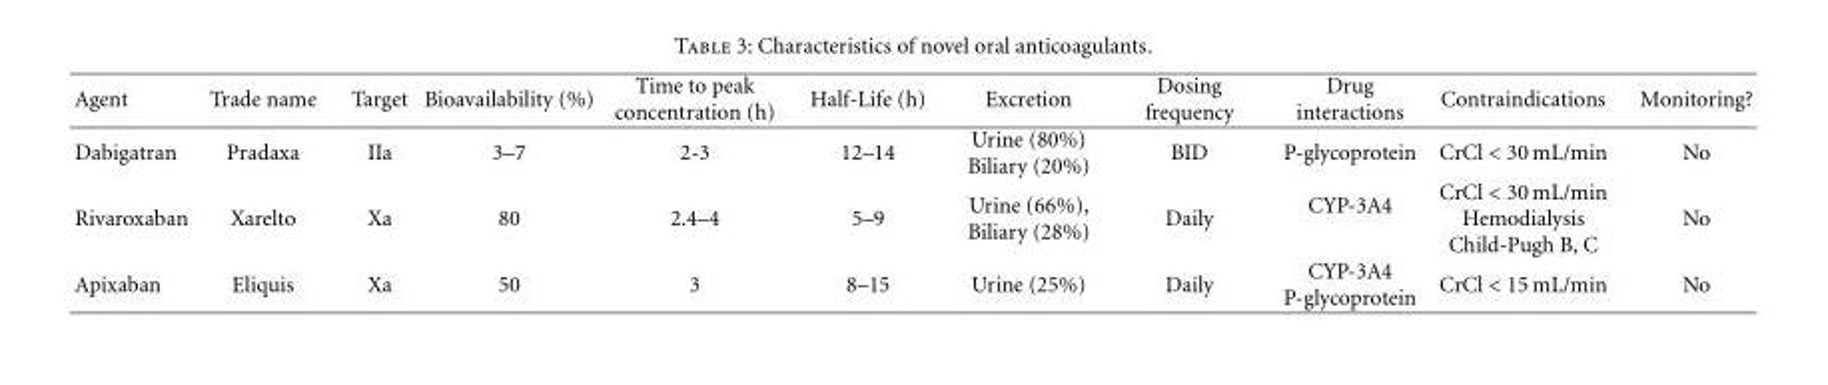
<table><thead><tr><td>Agent</td><td>Trade name</td><td>Target</td><td>Bioavailability (%)</td><td>Time to peak concentration (h)</td><td>Half-Life (h)</td><td>Excretion</td><td>Dosing frequency</td><td>Drug interactions</td><td>Contraindications</td><td>Monitoring?</td></tr></thead><tbody><tr><td>Dabigatran</td><td>Pradaxa</td><td>IIa</td><td>3–7</td><td>2-3</td><td>12–14</td><td>Urine (80%) Biliary (20%)</td><td>BID</td><td>P-glycoprotein</td><td>CrCl &lt; 30 mL/min</td><td>No</td></tr><tr><td>Rivaroxaban</td><td>Xarelto</td><td>Xa</td><td>80</td><td>2.4–4</td><td>5–9</td><td>Urine (66%), Biliary (28%)</td><td>Daily</td><td>CYP-3A4</td><td>CrCl &lt; 30 mL/min Hemodialysis Child-Pugh B, C</td><td>No</td></tr><tr><td>Apixaban</td><td>Eliquis</td><td>Xa</td><td>50</td><td>3</td><td>8–15</td><td>Urine (25%)</td><td>Daily</td><td>CYP-3A4 P-glycoprotein</td><td>CrCl &lt; 15 mL/min</td><td>No</td></tr></tbody></table>